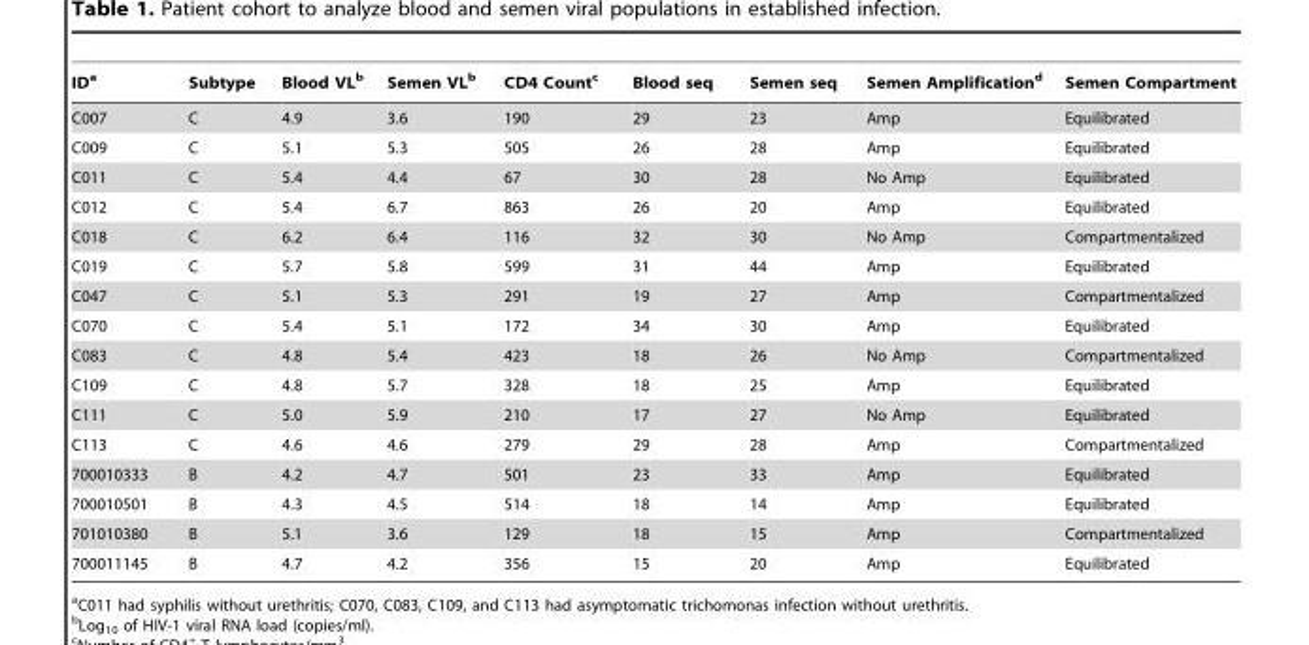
<table><thead><tr><td>ID<sup>a</sup></td><td>Subtype</td><td>Blood VL<sup>b</sup></td><td>Semen VL<sup>b</sup></td><td>CD4 Count<sup>c</sup></td><td>Blood seq</td><td>Semen seq</td><td>Semen Amplification<sup>d</sup></td><td>Semen Compartment</td></tr></thead><tbody><tr><td>C007</td><td>C</td><td>4.9</td><td>3.6</td><td>190</td><td>29</td><td>23</td><td>Amp</td><td>Equilibrated</td></tr><tr><td>C009</td><td>C</td><td>5.1</td><td>5.3</td><td>505</td><td>26</td><td>28</td><td>Amp</td><td>Equilibrated</td></tr><tr><td>C011</td><td>C</td><td>5.4</td><td>4.4</td><td>67</td><td>30</td><td>28</td><td>No Amp</td><td>Equilibrated</td></tr><tr><td>C012</td><td>C</td><td>5.4</td><td>6.7</td><td>863</td><td>26</td><td>20</td><td>Amp</td><td>Equilibrated</td></tr><tr><td>C018</td><td>C</td><td>6.2</td><td>6.4</td><td>116</td><td>32</td><td>30</td><td>No Amp</td><td>Compartmentalized</td></tr><tr><td>C019</td><td>C</td><td>5.7</td><td>5.8</td><td>599</td><td>31</td><td>44</td><td>Amp</td><td>Equilibrated</td></tr><tr><td>C047</td><td>C</td><td>5.1</td><td>5.3</td><td>291</td><td>19</td><td>27</td><td>Amp</td><td>Compartmentalized</td></tr><tr><td>C070</td><td>C</td><td>5.4</td><td>5.1</td><td>172</td><td>34</td><td>30</td><td>Amp</td><td>Equilibrated</td></tr><tr><td>C083</td><td>C</td><td>4.8</td><td>5.4</td><td>423</td><td>18</td><td>26</td><td>No Amp</td><td>Compartmentalized</td></tr><tr><td>C109</td><td>C</td><td>4.8</td><td>5.7</td><td>328</td><td>18</td><td>25</td><td>Amp</td><td>Equilibrated</td></tr><tr><td>C111</td><td>C</td><td>5.0</td><td>5.9</td><td>210</td><td>17</td><td>27</td><td>No Amp</td><td>Equilibrated</td></tr><tr><td>C113</td><td>C</td><td>4.6</td><td>4.6</td><td>279</td><td>29</td><td>28</td><td>Amp</td><td>Compartmentalized</td></tr><tr><td>700010333</td><td>B</td><td>4.2</td><td>4.7</td><td>501</td><td>23</td><td>33</td><td>Amp</td><td>Equilibrated</td></tr><tr><td>700010501</td><td>B</td><td>4.3</td><td>4.5</td><td>514</td><td>18</td><td>14</td><td>Amp</td><td>Equilibrated</td></tr><tr><td>701010380</td><td>B</td><td>5.1</td><td>3.6</td><td>129</td><td>18</td><td>15</td><td>Amp</td><td>Compartmentalized</td></tr><tr><td>700011145</td><td>B</td><td>4.7</td><td>4.2</td><td>356</td><td>15</td><td>20</td><td>Amp</td><td>Equilibrated</td></tr></tbody></table>